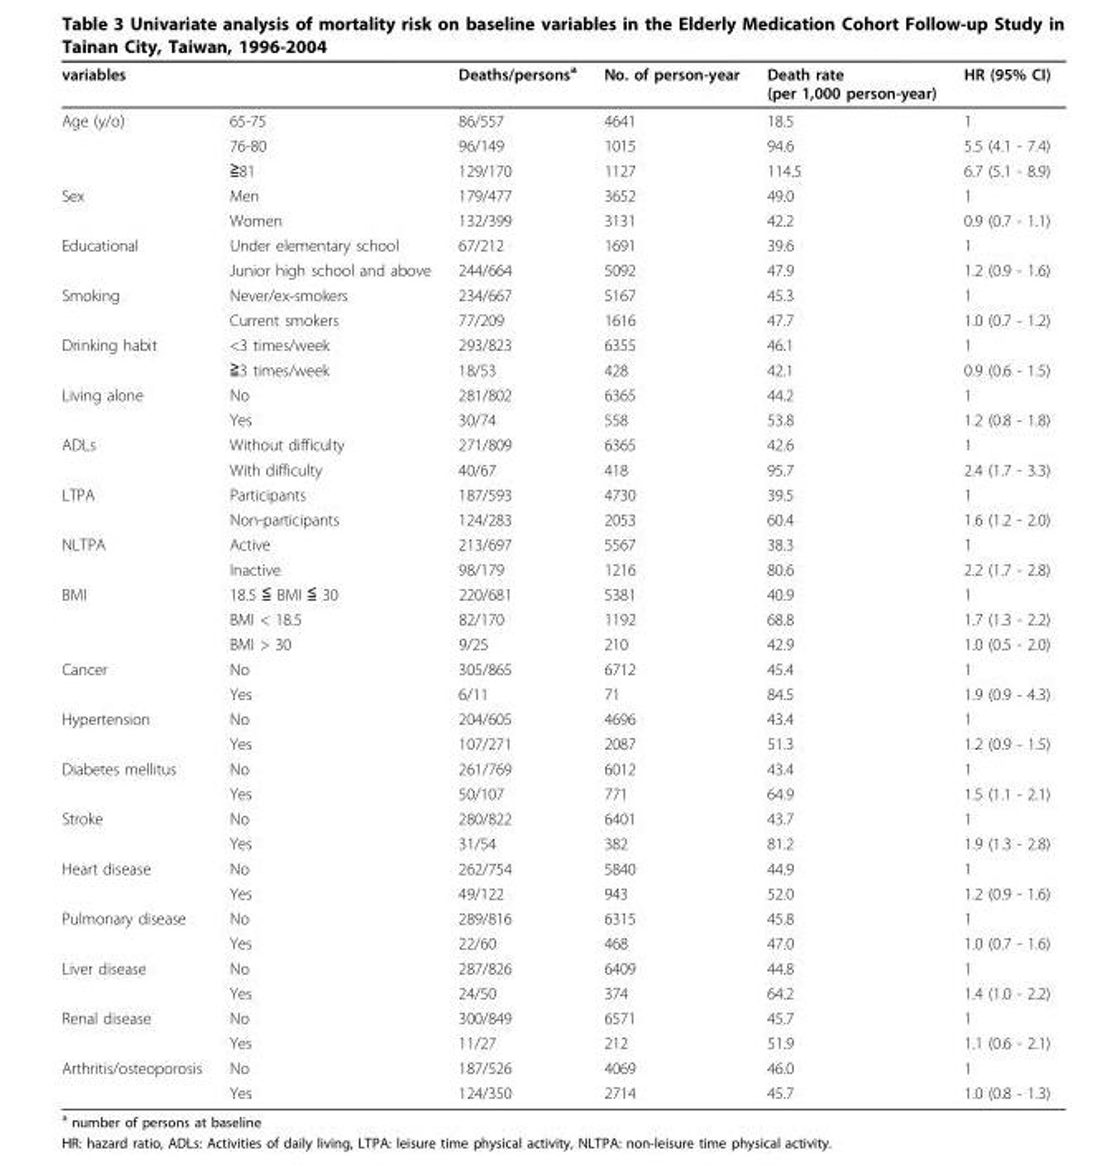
<table><tbody><tr><td>variables</td><td></td><td>Deaths/persons<sup>a</sup></td><td>No. of person-year</td><td>Death rate (per 1,000 person-year)</td><td>HR (95% CI)</td></tr><tr><td rowspan="3">Age (y/o)</td><td>65-75</td><td>86/557</td><td>4641</td><td>18.5</td><td>1</td></tr><tr><td>76-80</td><td>96/149</td><td>1015</td><td>94.6</td><td>5.5 (4.1 - 7.4)</td></tr><tr><td>≧81</td><td>129/170</td><td>1127</td><td>114.5</td><td>6.7 (5.1 - 8.9)</td></tr><tr><td rowspan="2">Sex</td><td>Men</td><td>179/477</td><td>3652</td><td>49.0</td><td>1</td></tr><tr><td>Women</td><td>132/399</td><td>3131</td><td>42.2</td><td>0.9 (0.7 - 1.1)</td></tr><tr><td rowspan="2">Educational</td><td>Under elementary school</td><td>67/212</td><td>1691</td><td>39.6</td><td>1</td></tr><tr><td>Junior high school and above</td><td>244/664</td><td>5092</td><td>47.9</td><td>1.2 (0.9 - 1.6)</td></tr><tr><td rowspan="2">Smoking</td><td>Never/ex-smokers</td><td>234/667</td><td>5167</td><td>45.3</td><td>1</td></tr><tr><td>Current smokers</td><td>77/209</td><td>1616</td><td>47.7</td><td>1.0 (0.7 - 1.2)</td></tr><tr><td rowspan="2">Drinking habit</td><td>&lt;3 times/week</td><td>293/823</td><td>6355</td><td>46.1</td><td>1</td></tr><tr><td>≧3 times/week</td><td>18/53</td><td>428</td><td>42.1</td><td>0.9 (0.6 - 1.5)</td></tr><tr><td rowspan="2">Living alone</td><td>No</td><td>281/802</td><td>6365</td><td>44.2</td><td>1</td></tr><tr><td>Yes</td><td>30/74</td><td>558</td><td>53.8</td><td>1.2 (0.8 - 1.8)</td></tr><tr><td rowspan="2">ADLs</td><td>Without difficulty</td><td>271/809</td><td>6365</td><td>42.6</td><td>1</td></tr><tr><td>With difficulty</td><td>40/67</td><td>418</td><td>95.7</td><td>2.4 (1.7 - 3.3)</td></tr><tr><td rowspan="2">LTPA</td><td>Participants</td><td>187/593</td><td>4730</td><td>39.5</td><td>1</td></tr><tr><td>Non-participants</td><td>124/283</td><td>2053</td><td>60.4</td><td>1.6 (1.2 - 2.0)</td></tr><tr><td rowspan="2">NLTPA</td><td>Active</td><td>213/697</td><td>5567</td><td>38.3</td><td>1</td></tr><tr><td>Inactive</td><td>98/179</td><td>1216</td><td>80.6</td><td>2.2 (1.7 - 2.8)</td></tr><tr><td rowspan="3">BMI</td><td>18.5 ≦ BMI ≦ 30</td><td>220/681</td><td>5381</td><td>40.9</td><td>1</td></tr><tr><td>BMI &lt; 18.5</td><td>82/170</td><td>1192</td><td>68.8</td><td>1.7 (1.3 - 2.2)</td></tr><tr><td>BMI &gt; 30</td><td>9/25</td><td>210</td><td>42.9</td><td>1.0 (0.5 - 2.0)</td></tr><tr><td rowspan="2">Cancer</td><td>No</td><td>305/865</td><td>6712</td><td>45.4</td><td>1</td></tr><tr><td>Yes</td><td>6/11</td><td>71</td><td>84.5</td><td>1.9 (0.9 - 4.3)</td></tr><tr><td rowspan="2">Hypertension</td><td>No</td><td>204/605</td><td>4696</td><td>43.4</td><td>1</td></tr><tr><td>Yes</td><td>107/271</td><td>2087</td><td>51.3</td><td>1.2 (0.9 - 1.5)</td></tr><tr><td rowspan="2">Diabetes mellitus</td><td>No</td><td>261/769</td><td>6012</td><td>43.4</td><td>1</td></tr><tr><td>Yes</td><td>50/107</td><td>771</td><td>64.9</td><td>1.5 (1.1 - 2.1)</td></tr><tr><td rowspan="2">Stroke</td><td>No</td><td>280/822</td><td>6401</td><td>43.7</td><td>1</td></tr><tr><td>Yes</td><td>31/54</td><td>382</td><td>81.2</td><td>1.9 (1.3 - 2.8)</td></tr><tr><td rowspan="2">Heart disease</td><td>No</td><td>262/754</td><td>5840</td><td>44.9</td><td>1</td></tr><tr><td>Yes</td><td>49/122</td><td>943</td><td>52.0</td><td>1.2 (0.9 - 1.6)</td></tr><tr><td rowspan="2">Pulmonary disease</td><td>No</td><td>289/816</td><td>6315</td><td>45.8</td><td>1</td></tr><tr><td>Yes</td><td>22/60</td><td>468</td><td>47.0</td><td>1.0 (0.7 - 1.6)</td></tr><tr><td rowspan="2">Liver disease</td><td>No</td><td>287/826</td><td>6409</td><td>44.8</td><td>1</td></tr><tr><td>Yes</td><td>24/50</td><td>374</td><td>64.2</td><td>1.4 (1.0 - 2.2)</td></tr><tr><td rowspan="2">Renal disease</td><td>No</td><td>300/849</td><td>6571</td><td>45.7</td><td>1</td></tr><tr><td>Yes</td><td>11/27</td><td>212</td><td>51.9</td><td>1.1 (0.6 - 2.1)</td></tr><tr><td rowspan="2">Arthritis/osteoporosis</td><td>No</td><td>187/526</td><td>4069</td><td>46.0</td><td>1</td></tr><tr><td>Yes</td><td>124/350</td><td>2714</td><td>45.7</td><td>1.0 (0.8 - 1.3)</td></tr></tbody></table>